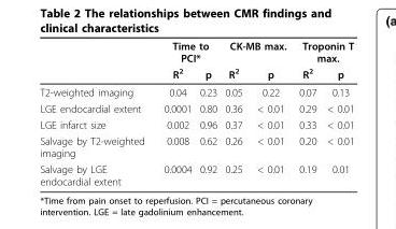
<table><thead><tr><td rowspan="2"></td><td colspan="2">Time to PCI*</td><td colspan="2">CK-MB max.</td><td colspan="2">Troponin T max.</td></tr><tr><td>R<sup>2</sup></td><td>p</td><td>R<sup>2</sup></td><td>p</td><td>R<sup>2</sup></td><td>p</td></tr></thead><tbody><tr><td>T2-weighted imaging</td><td>0.04</td><td>0.23</td><td>0.05</td><td>0.22</td><td>0.07</td><td>0.13</td></tr><tr><td>LGE endocardial extent</td><td>0.0001</td><td>0.80</td><td>0.36</td><td>&lt; 0.01</td><td>0.29</td><td>&lt; 0.01</td></tr><tr><td>LGE infarct size</td><td>0.002</td><td>0.96</td><td>0.37</td><td>&lt; 0.01</td><td>0.33</td><td>&lt; 0.01</td></tr><tr><td>Salvage by T2-weighted imaging</td><td>0.008</td><td>0.62</td><td>0.26</td><td>&lt; 0.01</td><td>0.20</td><td>&lt; 0.01</td></tr><tr><td>Salvage by LGE endocardial extent</td><td>0.0004</td><td>0.92</td><td>0.25</td><td>&lt; 0.01</td><td>0.19</td><td>0.01</td></tr></tbody></table>